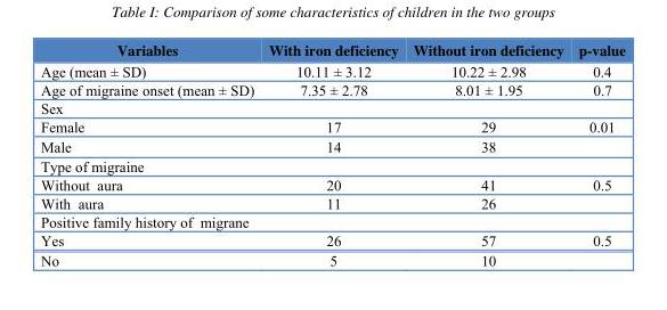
<table><thead><tr><td>Variables</td><td>With iron deficiency</td><td>Without iron deficiency</td><td>p-value</td></tr></thead><tbody><tr><td>Age (mean ± SD)</td><td>10.11 ± 3.12</td><td>10.22 ± 2.98</td><td>0.4</td></tr><tr><td>Age of migraine onset (mean ± SD)</td><td>7.35 ± 2.78</td><td>8.01 ± 1.95</td><td>0.7</td></tr><tr><td colspan="4">Sex</td></tr><tr><td>Female</td><td>17</td><td>29</td><td>0.01</td></tr><tr><td>Male</td><td>14</td><td>38</td><td></td></tr><tr><td colspan="4">Type of migraine</td></tr><tr><td>Without aura</td><td>20</td><td>41</td><td>0.5</td></tr><tr><td>With aura</td><td>11</td><td>26</td><td></td></tr><tr><td colspan="4">Positive family history of migrane</td></tr><tr><td>Yes</td><td>26</td><td>57</td><td>0.5</td></tr><tr><td>No</td><td>5</td><td>10</td><td></td></tr></tbody></table>